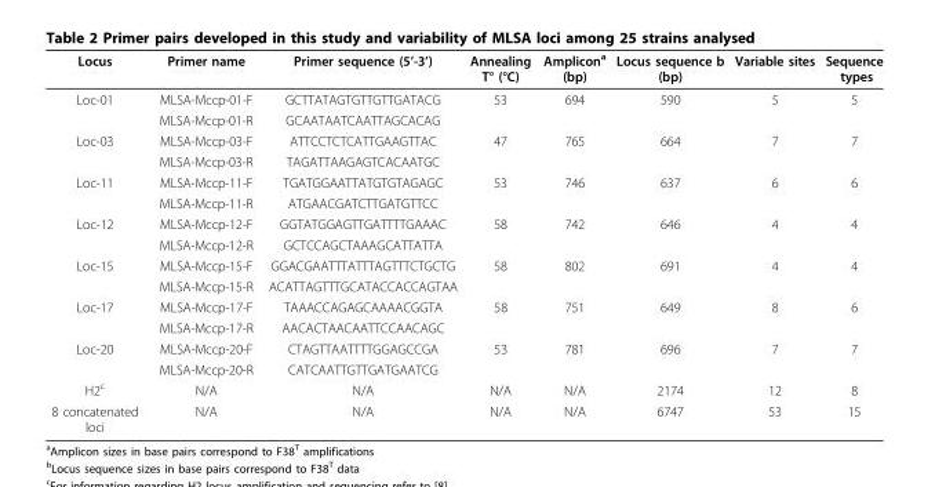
<table><thead><tr><td>Locus</td><td>Primer name</td><td>Primer sequence (5’-3’)</td><td>Annealing T° (°C)</td><td>Amplicon<sup>a</sup> (bp)</td><td>Locus sequence b (bp)</td><td>Variable sites</td><td>Sequence types</td></tr></thead><tbody><tr><td rowspan="2">Loc-01</td><td>MLSA-Mccp-01-F</td><td>GCTTATAGTGTTGTTGATACG</td><td>53</td><td>694</td><td>590</td><td>5</td><td>5</td></tr><tr><td>MLSA-Mccp-01-R</td><td>GCAATAATCAATTAGCACAG</td><td></td><td></td><td></td><td></td><td></td></tr><tr><td rowspan="2">Loc-03</td><td>MLSA-Mccp-03-F</td><td>ATTCCTCTCATTGAAGTTAC</td><td>47</td><td>765</td><td>664</td><td>7</td><td>7</td></tr><tr><td>MLSA-Mccp-03-R</td><td>TAGATTAAGAGTCACAATGC</td><td></td><td></td><td></td><td></td><td></td></tr><tr><td rowspan="2">Loc-11</td><td>MLSA-Mccp-11-F</td><td>TGATGGAATTATGTGTAGAGC</td><td>53</td><td>746</td><td>637</td><td>6</td><td>6</td></tr><tr><td>MLSA-Mccp-11-R</td><td>ATGAACGATCTTGATGTTCC</td><td></td><td></td><td></td><td></td><td></td></tr><tr><td rowspan="2">Loc-12</td><td>MLSA-Mccp-12-F</td><td>GGTATGGAGTTGATTTTGAAAC</td><td>58</td><td>742</td><td>646</td><td>4</td><td>4</td></tr><tr><td>MLSA-Mccp-12-R</td><td>GCTCCAGCTAAAGCATTATTA</td><td></td><td></td><td></td><td></td><td></td></tr><tr><td rowspan="2">Loc-15</td><td>MLSA-Mccp-15-F</td><td>GGACGAATTTATTTAGTTTCTGCTG</td><td>58</td><td>802</td><td>691</td><td>4</td><td>4</td></tr><tr><td>MLSA-Mccp-15-R</td><td>ACATTAGTTTGCATACCACCAGTAA</td><td></td><td></td><td></td><td></td><td></td></tr><tr><td rowspan="2">Loc-17</td><td>MLSA-Mccp-17-F</td><td>TAAACCAGAGCAAAACGGTA</td><td>58</td><td>751</td><td>649</td><td>8</td><td>6</td></tr><tr><td>MLSA-Mccp-17-R</td><td>AACACTAACAATTCCAACAGC</td><td></td><td></td><td></td><td></td><td></td></tr><tr><td rowspan="2">Loc-20</td><td>MLSA-Mccp-20-F</td><td>CTAGTTAATTTTGGAGCCGA</td><td>53</td><td>781</td><td>696</td><td>7</td><td>7</td></tr><tr><td>MLSA-Mccp-20-R</td><td>CATCAATTGTTGATGAATCG</td><td></td><td></td><td></td><td></td><td></td></tr><tr><td>H2<sup>c</sup></td><td>N/A</td><td>N/A</td><td>N/A</td><td>N/A</td><td>2174</td><td>12</td><td>8</td></tr><tr><td>8 concatenated loci</td><td>N/A</td><td>N/A</td><td>N/A</td><td>N/A</td><td>6747</td><td>53</td><td>15</td></tr></tbody></table>